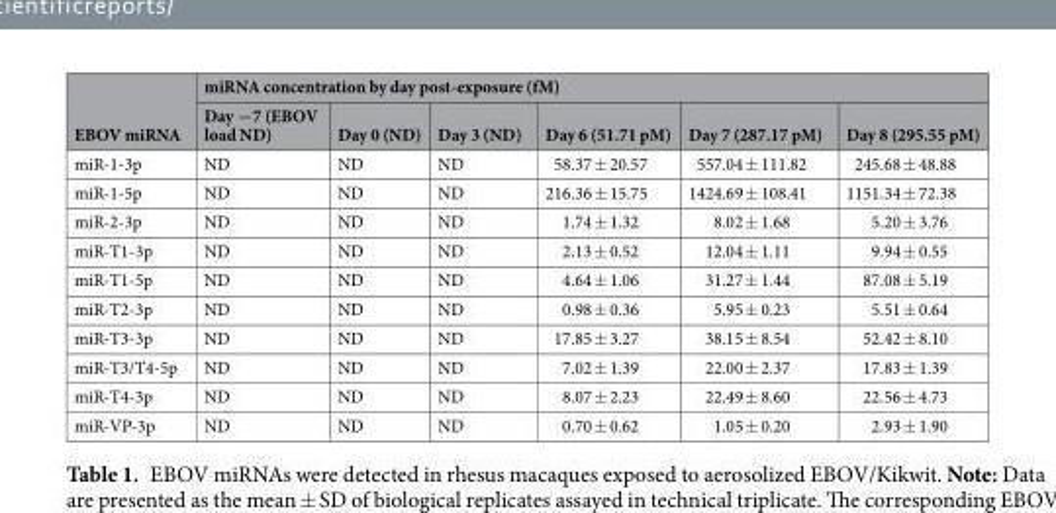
<table><thead><tr><td rowspan="2">EBOV miRNA</td><td colspan="6">miRNA concentration by day post-exposure (fM)</td></tr><tr><td>Day −7 (EBOV load ND)</td><td>Day 0 (ND)</td><td>Day 3 (ND)</td><td>Day 6 (51.71 pM)</td><td>Day 7 (287.17 pM)</td><td>Day 8 (295.55 pM)</td></tr></thead><tbody><tr><td>miR-1-3p</td><td>ND</td><td>ND</td><td>ND</td><td>58.37 ± 20.57</td><td>557.04 ± 111.82</td><td>245.68 ± 48.88</td></tr><tr><td>miR-1-5p</td><td>ND</td><td>ND</td><td>ND</td><td>216.36 ± 15.75</td><td>1424.69 ± 108.41</td><td>1151.34 ± 72.38</td></tr><tr><td>miR-2-3p</td><td>ND</td><td>ND</td><td>ND</td><td>1.74 ± 1.32</td><td>8.02 ± 1.68</td><td>5.20 ± 3.76</td></tr><tr><td>miR-T1-3p</td><td>ND</td><td>ND</td><td>ND</td><td>2.13 ± 0.52</td><td>12.04 ± 1.11</td><td>9.94 ± 0.55</td></tr><tr><td>miR-T1-5p</td><td>ND</td><td>ND</td><td>ND</td><td>4.64 ± 1.06</td><td>31.27 ± 1.44</td><td>87.08 ± 5.19</td></tr><tr><td>miR-T2-3p</td><td>ND</td><td>ND</td><td>ND</td><td>0.98 ± 0.36</td><td>5.95 ± 0.23</td><td>5.51 ± 0.64</td></tr><tr><td>miR-T3-3p</td><td>ND</td><td>ND</td><td>ND</td><td>17.85 ± 3.27</td><td>38.15 ± 8.54</td><td>52.42 ± 8.10</td></tr><tr><td>miR-T3/T4-5p</td><td>ND</td><td>ND</td><td>ND</td><td>7.02 ± 1.39</td><td>22.00 ± 2.37</td><td>17.83 ± 1.39</td></tr><tr><td>miR-T4-3p</td><td>ND</td><td>ND</td><td>ND</td><td>8.07 ± 2.23</td><td>22.49 ± 8.60</td><td>22.56 ± 4.73</td></tr><tr><td>miR-VP-3p</td><td>ND</td><td>ND</td><td>ND</td><td>0.70 ± 0.62</td><td>1.05 ± 0.20</td><td>2.93 ± 1.90</td></tr></tbody></table>